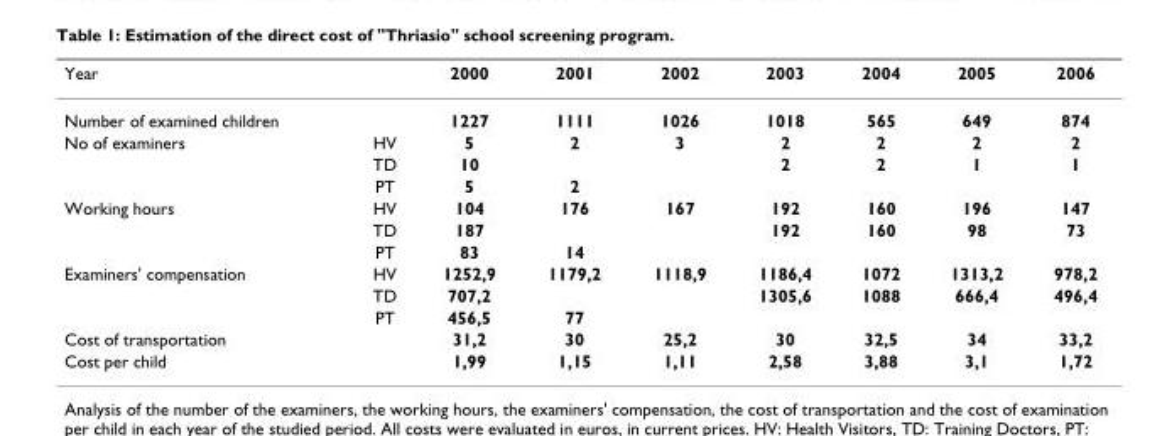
<table><thead><tr><td rowspan="2" colspan="2">Year Number of examined children</td><td rowspan="3">2000 1227 5</td><td rowspan="3">2001 1111 2</td><td rowspan="3">2002 1026 3</td><td rowspan="3">2003 1018 2</td><td rowspan="3">2004 565 2</td><td rowspan="3">2005 649 2</td><td rowspan="3">2006 874 2</td></tr><tr></tr><tr><td>No of examiners</td><td>HV</td></tr></thead><tbody><tr><td></td><td>TD</td><td>10</td><td></td><td></td><td>2</td><td>2</td><td>1</td><td>1</td></tr><tr><td></td><td>PT</td><td>5</td><td>2</td><td></td><td></td><td></td><td></td><td></td></tr><tr><td rowspan="3">Working hours</td><td>HV</td><td>104</td><td>176</td><td>167</td><td>192</td><td>160</td><td>196</td><td>147</td></tr><tr><td>TD</td><td>187</td><td></td><td></td><td>192</td><td>160</td><td>98</td><td>73</td></tr><tr><td>PT</td><td>83</td><td>14</td><td></td><td></td><td></td><td></td><td></td></tr><tr><td rowspan="3">Examiners&#x27; compensation</td><td>HV</td><td>1252,9</td><td>1179,2</td><td>1118,9</td><td>1186,4</td><td>1072</td><td>1313,2</td><td>978,2</td></tr><tr><td>TD</td><td>707,2</td><td></td><td></td><td>1305,6</td><td>1088</td><td>666,4</td><td>496,4</td></tr><tr><td>PT</td><td>456,5</td><td>77</td><td></td><td></td><td></td><td></td><td></td></tr><tr><td colspan="2">Cost of transportation</td><td>31,2</td><td>30</td><td>25,2</td><td>30</td><td>32,5</td><td>34</td><td>33,2</td></tr><tr><td colspan="2">Cost per child</td><td>1,99</td><td>1,15</td><td>1,11</td><td>2,58</td><td>3,88</td><td>3,1</td><td>1,72</td></tr></tbody></table>